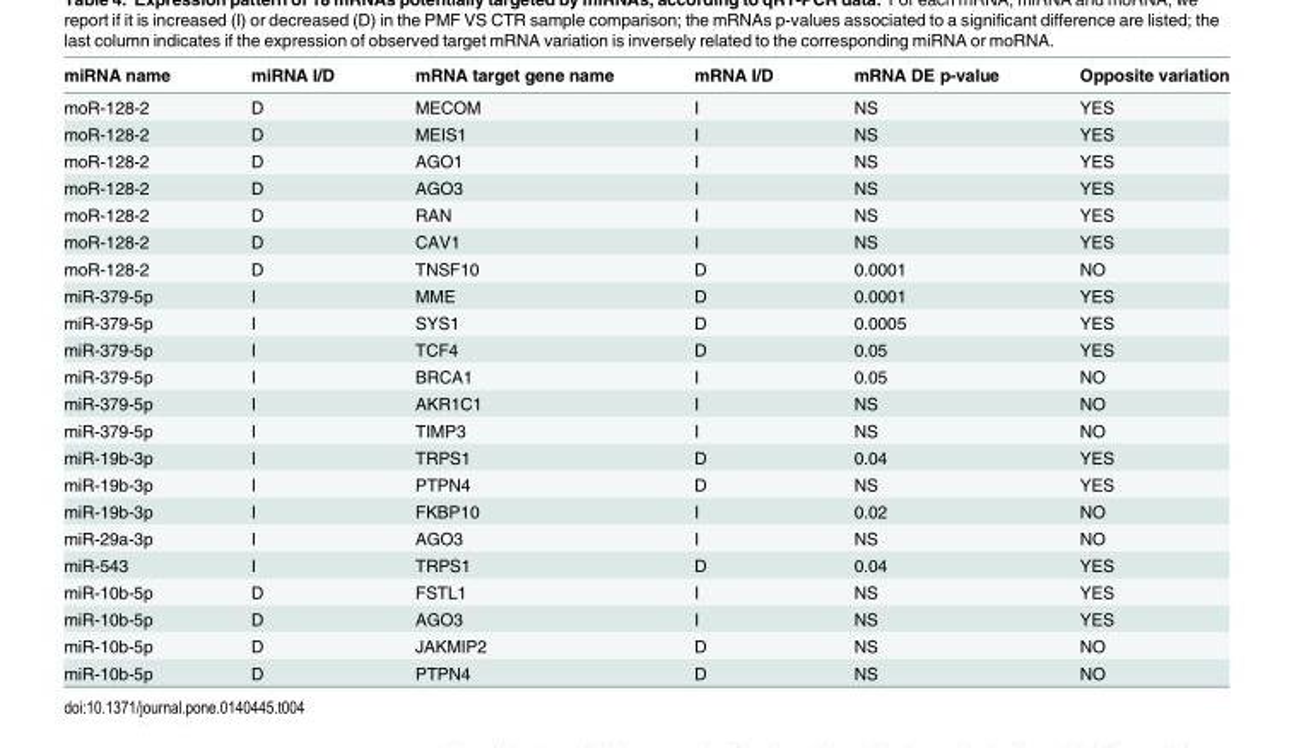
<table><thead><tr><td>miRNA name</td><td>miRNA I/D</td><td>mRNA target gene name</td><td>mRNA I/D</td><td>mRNA DE p-value</td><td>Opposite variation</td></tr></thead><tbody><tr><td>moR-128-2</td><td>D</td><td>MECOM</td><td>I</td><td>NS</td><td>YES</td></tr><tr><td>moR-128-2</td><td>D</td><td>MEIS1</td><td>I</td><td>NS</td><td>YES</td></tr><tr><td>moR-128-2</td><td>D</td><td>AGO1</td><td>I</td><td>NS</td><td>YES</td></tr><tr><td>moR-128-2</td><td>D</td><td>AGO3</td><td>I</td><td>NS</td><td>YES</td></tr><tr><td>moR-128-2</td><td>D</td><td>RAN</td><td>I</td><td>NS</td><td>YES</td></tr><tr><td>moR-128-2</td><td>D</td><td>CAV1</td><td>I</td><td>NS</td><td>YES</td></tr><tr><td>moR-128-2</td><td>D</td><td>TNSF10</td><td>D</td><td>0.0001</td><td>NO</td></tr><tr><td>miR-379-5p</td><td>I</td><td>MME</td><td>D</td><td>0.0001</td><td>YES</td></tr><tr><td>miR-379-5p</td><td>I</td><td>SYS1</td><td>D</td><td>0.0005</td><td>YES</td></tr><tr><td>miR-379-5p</td><td>I</td><td>TCF4</td><td>D</td><td>0.05</td><td>YES</td></tr><tr><td>miR-379-5p</td><td>I</td><td>BRCA1</td><td>I</td><td>0.05</td><td>NO</td></tr><tr><td>miR-379-5p</td><td>I</td><td>AKR1C1</td><td>I</td><td>NS</td><td>NO</td></tr><tr><td>miR-379-5p</td><td>I</td><td>TIMP3</td><td>I</td><td>NS</td><td>NO</td></tr><tr><td>miR-19b-3p</td><td>I</td><td>TRPS1</td><td>D</td><td>0.04</td><td>YES</td></tr><tr><td>miR-19b-3p</td><td>I</td><td>PTPN4</td><td>D</td><td>NS</td><td>YES</td></tr><tr><td>miR-19b-3p</td><td>I</td><td>FKBP10</td><td>I</td><td>0.02</td><td>NO</td></tr><tr><td>miR-29a-3p</td><td>I</td><td>AGO3</td><td>I</td><td>NS</td><td>NO</td></tr><tr><td>miR-543</td><td>I</td><td>TRPS1</td><td>D</td><td>0.04</td><td>YES</td></tr><tr><td>miR-10b-5p</td><td>D</td><td>FSTL1</td><td>I</td><td>NS</td><td>YES</td></tr><tr><td>miR-10b-5p</td><td>D</td><td>AGO3</td><td>I</td><td>NS</td><td>YES</td></tr><tr><td>miR-10b-5p</td><td>D</td><td>JAKMIP2</td><td>D</td><td>NS</td><td>NO</td></tr><tr><td>miR-10b-5p</td><td>D</td><td>PTPN4</td><td>D</td><td>NS</td><td>NO</td></tr></tbody></table>